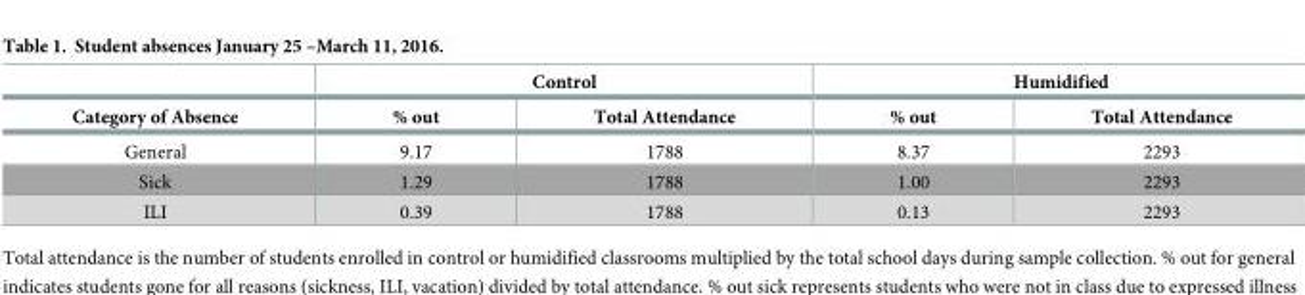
<table><thead><tr><td rowspan="2">Category of Absence</td><td colspan="2">Control</td><td colspan="2">Humidified</td></tr><tr><td>% out</td><td>Total Attendance</td><td>% out</td><td>Total Attendance</td></tr></thead><tbody><tr><td>General</td><td>9.17</td><td>1788</td><td>8.37</td><td>2293</td></tr><tr><td>Sick</td><td>1.29</td><td>1788</td><td>1.00</td><td>2293</td></tr><tr><td>ILI</td><td>0.39</td><td>1788</td><td>0.13</td><td>2293</td></tr></tbody></table>